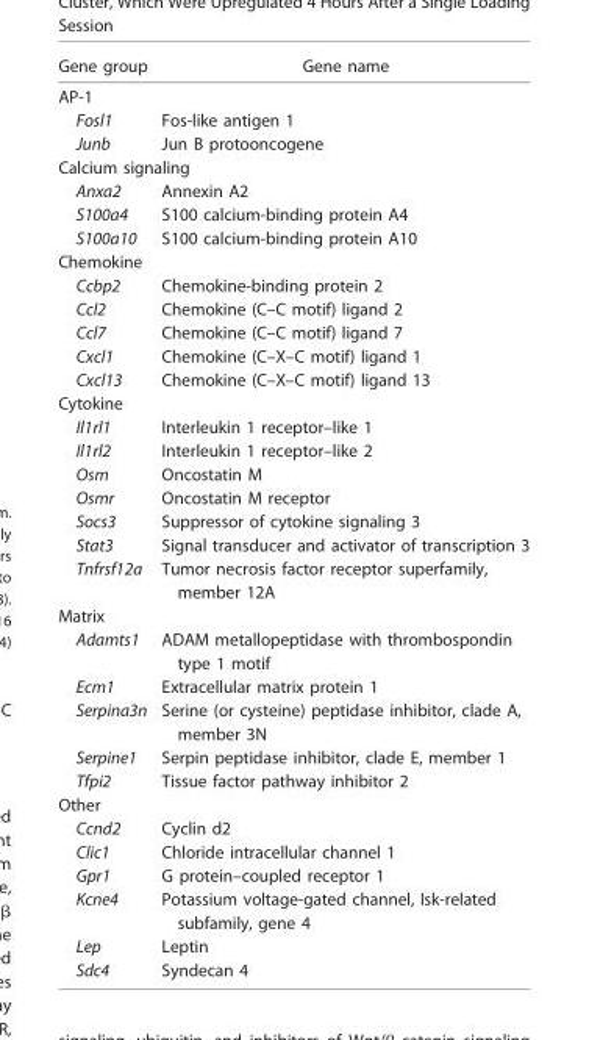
<table><thead><tr><td>Gene group</td><td>Gene name</td></tr></thead><tbody><tr><td colspan="2">AP-1</td></tr><tr><td>Fosl1</td><td>Fos-like antigen 1</td></tr><tr><td>Junb</td><td>Jun B protooncogene</td></tr><tr><td colspan="2">Calcium signaling</td></tr><tr><td>Anxa2</td><td>Annexin A2</td></tr><tr><td>S100a4</td><td>S100 calcium-binding protein A4</td></tr><tr><td>S100a10</td><td>S100 calcium-binding protein A10</td></tr><tr><td colspan="2">Chemokine</td></tr><tr><td>Ccbp2</td><td>Chemokine-binding protein 2</td></tr><tr><td>Ccl2</td><td>Chemokine (C–C motif) ligand 2</td></tr><tr><td>Ccl7</td><td>Chemokine (C–C motif) ligand 7</td></tr><tr><td>Cxcl1</td><td>Chemokine (C–X–C motif) ligand 1</td></tr><tr><td>Cxcl13</td><td>Chemokine (C–X–C motif) ligand 13</td></tr><tr><td colspan="2">Cytokine</td></tr><tr><td>Il1rl1</td><td>Interleukin 1 receptor–like 1</td></tr><tr><td>Il1rl2</td><td>Interleukin 1 receptor–like 2</td></tr><tr><td>Osm</td><td>Oncostatin M</td></tr><tr><td>Osmr</td><td>Oncostatin M receptor</td></tr><tr><td>Socs3</td><td>Suppressor of cytokine signaling 3</td></tr><tr><td>Stat3</td><td>Signal transducer and activator of transcription 3</td></tr><tr><td>Tnfrsf12a</td><td>Tumor necrosis factor receptor superfamily, member 12A</td></tr><tr><td colspan="2">Matrix</td></tr><tr><td>Adamts1</td><td>ADAM metallopeptidase with thrombospondin type 1 motif</td></tr><tr><td>Ecm1</td><td>Extracellular matrix protein 1</td></tr><tr><td>Serpina3n</td><td>Serine (or cysteine) peptidase inhibitor, clade A, member 3N</td></tr><tr><td>Serpine1</td><td>Serpin peptidase inhibitor, clade E, member 1</td></tr><tr><td>Tfpi2</td><td>Tissue factor pathway inhibitor 2</td></tr><tr><td colspan="2">Other</td></tr><tr><td>Ccnd2</td><td>Cyclin d2</td></tr><tr><td>Clic1</td><td>Chloride intracellular channel 1</td></tr><tr><td>Gpr1</td><td>G protein–coupled receptor 1</td></tr><tr><td>Kcne4</td><td>Potassium voltage-gated channel, Isk-related subfamily, gene 4</td></tr><tr><td>Lep</td><td>Leptin</td></tr><tr><td>Sdc4</td><td>Syndecan 4</td></tr></tbody></table>